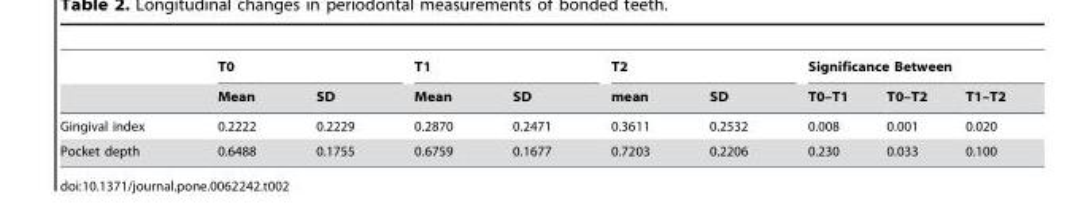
<table><thead><tr><td rowspan="2"></td><td colspan="2">T0</td><td colspan="2">T1</td><td colspan="2">T2</td><td colspan="3">Significance Between</td></tr><tr><td>Mean</td><td>SD</td><td>Mean</td><td>SD</td><td>mean</td><td>SD</td><td>T0–T1</td><td>T0–T2</td><td>T1–T2</td></tr></thead><tbody><tr><td>Gingival index</td><td>0.2222</td><td>0.2229</td><td>0.2870</td><td>0.2471</td><td>0.3611</td><td>0.2532</td><td>0.008</td><td>0.001</td><td>0.020</td></tr><tr><td>Pocket depth</td><td>0.6488</td><td>0.1755</td><td>0.6759</td><td>0.1677</td><td>0.7203</td><td>0.2206</td><td>0.230</td><td>0.033</td><td>0.100</td></tr></tbody></table>